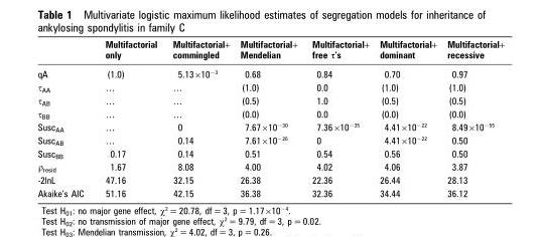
<table><thead><tr><td></td><td>Multifactorial only</td><td>Multifactorial+ commingled</td><td>Multifactorial+ Mendelian</td><td>Multifactorial+ free τ’s</td><td>Multifactorial+ dominant</td><td>Multifactorial+ recessive</td></tr></thead><tbody><tr><td>qA</td><td>(1.0)</td><td>5.13×10<sup>−3</sup></td><td>0.68</td><td>0.84</td><td>0.70</td><td>0.97</td></tr><tr><td>τ<sub>AA</sub></td><td>…</td><td>…</td><td>(1.0)</td><td>0.0</td><td>(1.0)</td><td>(1.0)</td></tr><tr><td>τ<sub>AB</sub></td><td>…</td><td>…</td><td>(0.5)</td><td>1.0</td><td>(0.5)</td><td>(0.5)</td></tr><tr><td>τ<sub>BB</sub></td><td>…</td><td>…</td><td>(0.0)</td><td>0.0</td><td>(0.0)</td><td>(0.0)</td></tr><tr><td>Susc<sub>AA</sub></td><td>…</td><td>0</td><td>7.67×10<sup>−30</sup></td><td>7.36×10<sup>−35</sup></td><td>4.41×10<sup>−22</sup></td><td>8.49×10<sup>−55</sup></td></tr><tr><td>Susc<sub>AB</sub></td><td>…</td><td>0.14</td><td>7.61×10<sup>−26</sup></td><td>0</td><td>4.41×10<sup>−22</sup></td><td>0.50</td></tr><tr><td>Susc<sub>BB</sub></td><td>0.17</td><td>0.14</td><td>0.51</td><td>0.54</td><td>0.56</td><td>0.50</td></tr><tr><td>ρ<sub>resid</sub></td><td>1.67</td><td>8.08</td><td>4.00</td><td>4.02</td><td>4.06</td><td>3.87</td></tr><tr><td>-2lnL</td><td>47.16</td><td>32.15</td><td>26.38</td><td>22.36</td><td>26.44</td><td>28.13</td></tr><tr><td>Akaike’s AIC</td><td>51.16</td><td>42.15</td><td>36.38</td><td>32.36</td><td>34.44</td><td>36.12</td></tr></tbody></table>